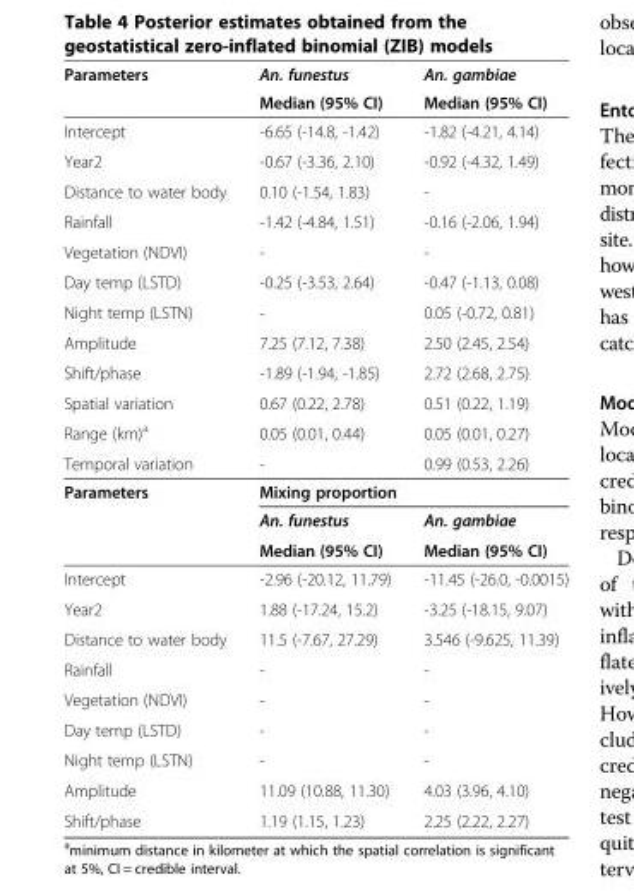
<table><thead><tr><td rowspan="2">Parameters</td><td rowspan="2">An. funestus Median (95% CI)</td><td rowspan="2">An. gambiae Median (95% CI)</td></tr><tr></tr></thead><tbody><tr><td>Intercept</td><td>-6.65 (-14.8, -1.42)</td><td>-1.82 (-4.21, 4.14)</td></tr><tr><td>Year2</td><td>-0.67 (-3.36, 2.10)</td><td>-0.92 (-4.32, 1.49)</td></tr><tr><td>Distance to water body</td><td>0.10 (-1.54, 1.83)</td><td>-</td></tr><tr><td>Rainfall</td><td>-1.42 (-4.84, 1.51)</td><td>-0.16 (-2.06, 1.94)</td></tr><tr><td>Vegetation (NDVI)</td><td>-</td><td>-</td></tr><tr><td>Day temp (LSTD)</td><td>-0.25 (-3.53, 2.64)</td><td>-0.47 (-1.13, 0.08)</td></tr><tr><td>Night temp (LSTN)</td><td>-</td><td>0.05 (-0.72, 0.81)</td></tr><tr><td>Amplitude</td><td>7.25 (7.12, 7.38)</td><td>2.50 (2.45, 2.54)</td></tr><tr><td>Shift/phase</td><td>-1.89 (-1.94, -1.85)</td><td>2.72 (2.68, 2.75)</td></tr><tr><td>Spatial variation</td><td>0.67 (0.22, 2.78)</td><td>0.51 (0.22, 1.19)</td></tr><tr><td>Range (km)<sup>a</sup></td><td>0.05 (0.01, 0.44)</td><td>0.05 (0.01, 0.27)</td></tr><tr><td>Temporal variation</td><td>-</td><td>0.99 (0.53, 2.26)</td></tr><tr><td rowspan="3">Parameters</td><td colspan="2">Mixing proportion</td></tr><tr><td>An. funestus</td><td>An. gambiae</td></tr><tr><td>Median (95% CI)</td><td>Median (95% CI)</td></tr><tr><td>Intercept</td><td>-2.96 (-20.12, 11.79)</td><td>-11.45 (-26.0, -0.0015)</td></tr><tr><td>Year2</td><td>1.88 (-17.24, 15.2)</td><td>-3.25 (-18.15, 9.07)</td></tr><tr><td>Distance to water body</td><td>11.5 (-7.67, 27.29)</td><td>3.546 (-9.625, 11.39)</td></tr><tr><td>Rainfall</td><td>-</td><td>-</td></tr><tr><td>Vegetation (NDVI)</td><td>-</td><td>-</td></tr><tr><td>Day temp (LSTD)</td><td>-</td><td>-</td></tr><tr><td>Night temp (LSTN)</td><td>-</td><td>-</td></tr><tr><td>Amplitude</td><td>11.09 (10.88, 11.30)</td><td>4.03 (3.96, 4.10)</td></tr><tr><td>Shift/phase</td><td>1.19 (1.15, 1.23)</td><td>2.25 (2.22, 2.27)</td></tr></tbody></table>